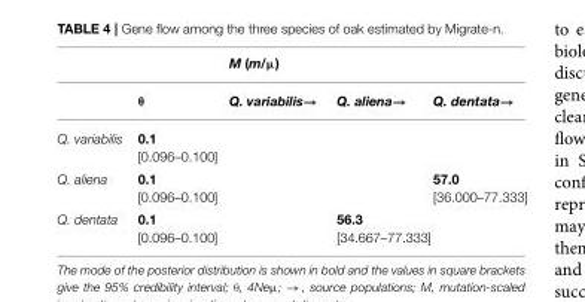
<table><thead><tr><td></td><td></td><td>M (m/µ)</td><td></td><td></td></tr></thead><tbody><tr><td></td><td>θ</td><td>Q. variabilis→</td><td>Q. aliena→</td><td>Q. dentata→</td></tr><tr><td>Q. variabilis</td><td>0.1 [0.096–0.100]</td><td></td><td></td><td></td></tr><tr><td>Q. aliena</td><td>0.1 [0.096–0.100]</td><td></td><td></td><td>57.0 [36.000–77.333]</td></tr><tr><td>Q. dentata</td><td>0.1 [0.096–0.100]</td><td></td><td>56.3 [34.667–77.333]</td><td></td></tr></tbody></table>